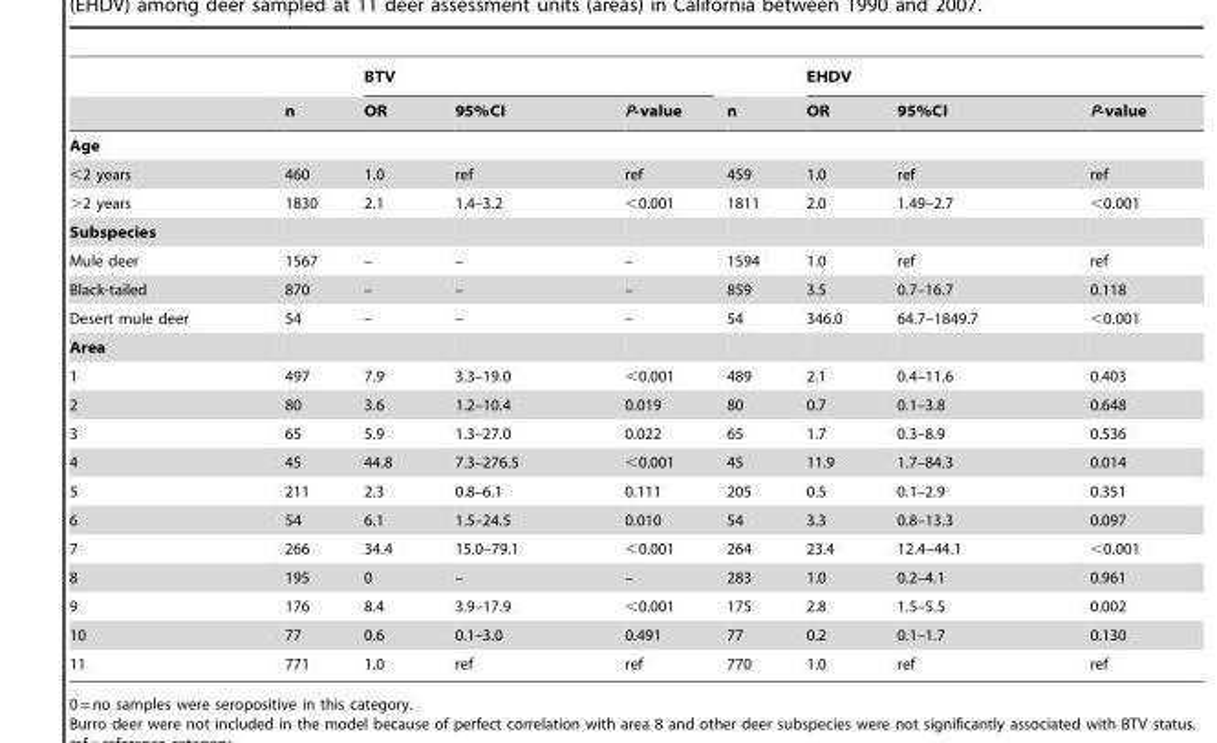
<table><thead><tr><td rowspan="2"></td><td rowspan="2">n</td><td colspan="3">BTV</td><td rowspan="2">n</td><td colspan="3">EHDV</td></tr><tr><td>OR</td><td>95%CI</td><td>P-value</td><td>OR</td><td>95%CI</td><td>P-value</td></tr></thead><tbody><tr><td colspan="9">Age</td></tr><tr><td>&lt;2 years</td><td>460</td><td>1.0</td><td>ref</td><td>ref</td><td>459</td><td>1.0</td><td>ref</td><td>ref</td></tr><tr><td>&gt;2 years</td><td>1830</td><td>2.1</td><td>1.4–3.2</td><td>&lt;0.001</td><td>1811</td><td>2.0</td><td>1.49–2.7</td><td>&lt;0.001</td></tr><tr><td colspan="9">Subspecies</td></tr><tr><td>Mule deer</td><td>1567</td><td>–</td><td>–</td><td>–</td><td>1594</td><td>1.0</td><td>ref</td><td>ref</td></tr><tr><td>Black-tailed</td><td>870</td><td>–</td><td>–</td><td>–</td><td>859</td><td>3.5</td><td>0.7–16.7</td><td>0.118</td></tr><tr><td>Desert mule deer</td><td>54</td><td>–</td><td>–</td><td>–</td><td>54</td><td>346.0</td><td>64.7–1849.7</td><td>&lt;0.001</td></tr><tr><td colspan="9">Area</td></tr><tr><td>1</td><td>497</td><td>7.9</td><td>3.3–19.0</td><td>&lt;0.001</td><td>489</td><td>2.1</td><td>0.4–11.6</td><td>0.403</td></tr><tr><td>2</td><td>80</td><td>3.6</td><td>1.2–10.4</td><td>0.019</td><td>80</td><td>0.7</td><td>0.1–3.8</td><td>0.648</td></tr><tr><td>3</td><td>65</td><td>5.9</td><td>1.3–27.0</td><td>0.022</td><td>65</td><td>1.7</td><td>0.3–8.9</td><td>0.536</td></tr><tr><td>4</td><td>45</td><td>44.8</td><td>7.3–276.5</td><td>&lt;0.001</td><td>45</td><td>11.9</td><td>1.7–84.3</td><td>0.014</td></tr><tr><td>5</td><td>211</td><td>2.3</td><td>0.8–6.1</td><td>0.111</td><td>205</td><td>0.5</td><td>0.1–2.9</td><td>0.351</td></tr><tr><td>6</td><td>54</td><td>6.1</td><td>1.5–24.5</td><td>0.010</td><td>54</td><td>3.3</td><td>0.8–13.3</td><td>0.097</td></tr><tr><td>7</td><td>266</td><td>34.4</td><td>15.0–79.1</td><td>&lt;0.001</td><td>264</td><td>23.4</td><td>12.4–44.1</td><td>&lt;0.001</td></tr><tr><td>8</td><td>195</td><td>0</td><td>–</td><td>–</td><td>283</td><td>1.0</td><td>0.2–4.1</td><td>0.961</td></tr><tr><td>9</td><td>176</td><td>8.4</td><td>3.9–17.9</td><td>&lt;0.001</td><td>175</td><td>2.8</td><td>1.5–5.5</td><td>0.002</td></tr><tr><td>10</td><td>77</td><td>0.6</td><td>0.1–3.0</td><td>0.491</td><td>77</td><td>0.2</td><td>0.1–1.7</td><td>0.130</td></tr><tr><td>11</td><td>771</td><td>1.0</td><td>ref</td><td>ref</td><td>770</td><td>1.0</td><td>ref</td><td>ref</td></tr></tbody></table>